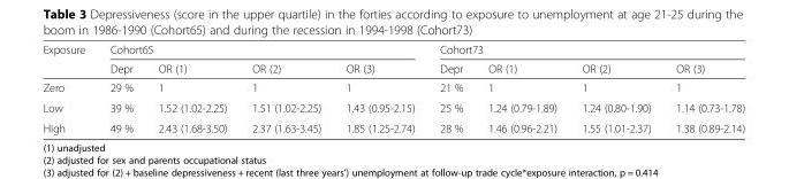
<table><thead><tr><td rowspan="2">Exposure</td><td colspan="4">Cohort65</td><td colspan="4">Cohort73</td></tr><tr><td>Depr</td><td>OR (1)</td><td>OR (2)</td><td>OR (3)</td><td>Depr</td><td>OR (1)</td><td>OR (2)</td><td>OR (3)</td></tr></thead><tbody><tr><td>Zero</td><td>29 %</td><td>1</td><td>1</td><td>1</td><td>21 %</td><td>1</td><td>1</td><td>1</td></tr><tr><td>Low</td><td>39 %</td><td>1.52 (1.02-2.25)</td><td>1.51 (1.02-2.25)</td><td>1.43 (0.95-2.15)</td><td>25 %</td><td>1.24 (0.79-1.89)</td><td>1.24 (0.80-1.90)</td><td>1.14 (0.73-1.78)</td></tr><tr><td>High</td><td>49 %</td><td>2.43 (1.68-3.50)</td><td>2.37 (1.63-3.45)</td><td>1.85 (1.25-2.74)</td><td>28 %</td><td>1.46 (0.96-2.21)</td><td>1.55 (1.01-2.37)</td><td>1.38 (0.89-2.14)</td></tr></tbody></table>